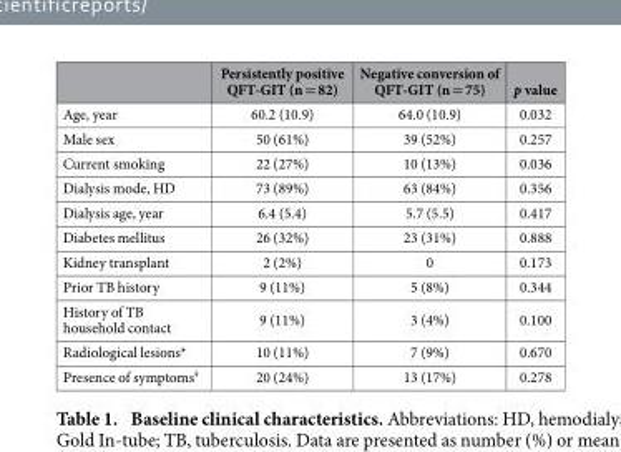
<table><thead><tr><td></td><td>Persistently positive QFT-GIT (n = 82)</td><td>Negative conversion of QFT-GIT (n = 75)</td><td>p value</td></tr></thead><tbody><tr><td>Age, year</td><td>60.2 (10.9)</td><td>64.0 (10.9)</td><td>0.032</td></tr><tr><td>Male sex</td><td>50 (61%)</td><td>39 (52%)</td><td>0.257</td></tr><tr><td>Current smoking</td><td>22 (27%)</td><td>10 (13%)</td><td>0.036</td></tr><tr><td>Dialysis mode, HD</td><td>73 (89%)</td><td>63 (84%)</td><td>0.356</td></tr><tr><td>Dialysis age, year</td><td>6.4 (5.4)</td><td>5.7 (5.5)</td><td>0.417</td></tr><tr><td>Diabetes mellitus</td><td>26 (32%)</td><td>23 (31%)</td><td>0.888</td></tr><tr><td>Kidney transplant</td><td>2 (2%)</td><td>0</td><td>0.173</td></tr><tr><td>Prior TB history</td><td>9 (11%)</td><td>5 (8%)</td><td>0.344</td></tr><tr><td>History of TB household contact</td><td>9 (11%)</td><td>3 (4%)</td><td>0.100</td></tr><tr><td>Radiological lesions*</td><td>10 (11%)</td><td>7 (9%)</td><td>0.670</td></tr><tr><td>Presence of symptoms<sup>ǂ</sup></td><td>20 (24%)</td><td>13 (17%)</td><td>0.278</td></tr></tbody></table>